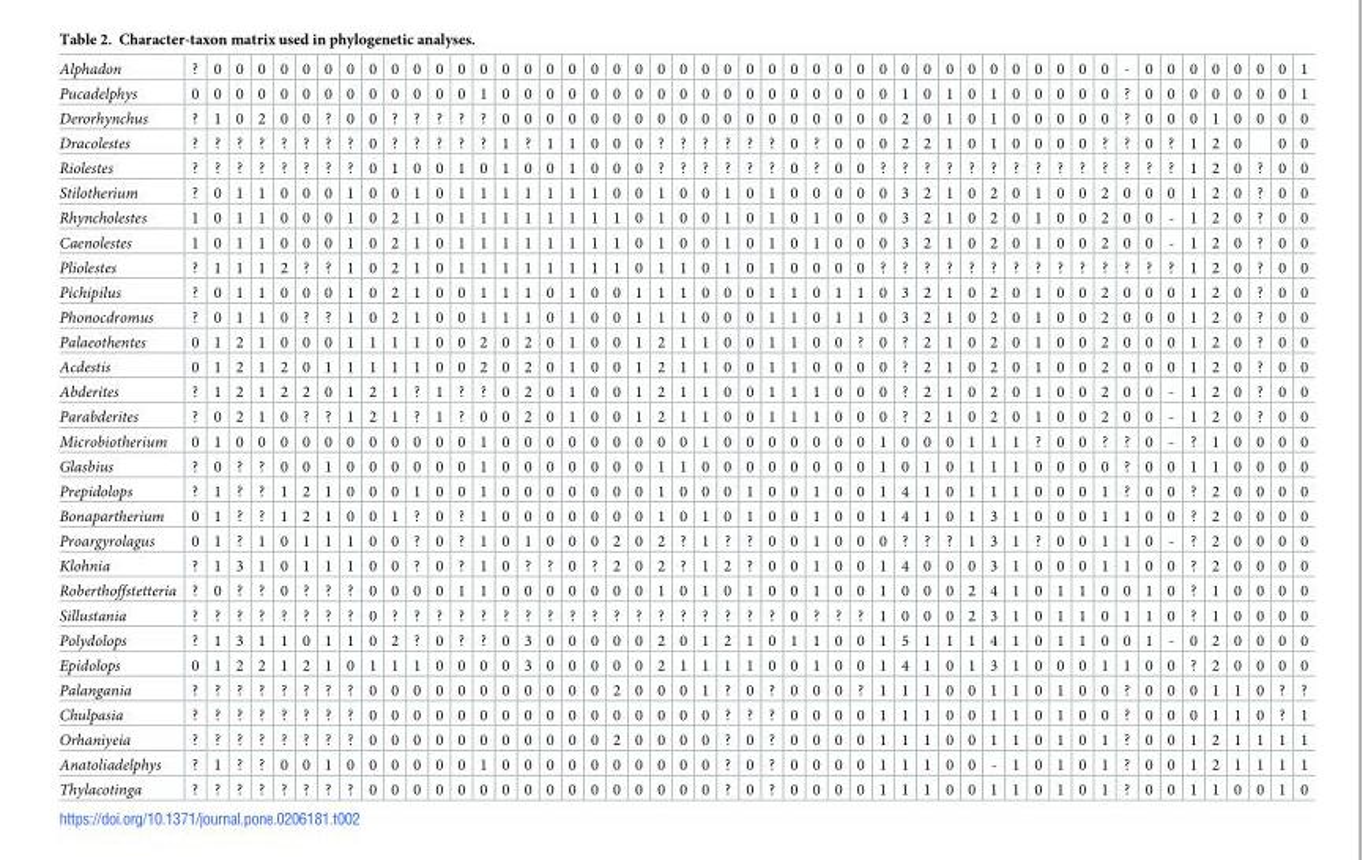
<table><tbody><tr><td>Alphadon</td><td>?</td><td>0</td><td>0</td><td>0</td><td>0</td><td>0</td><td>0</td><td>0</td><td>0</td><td>0</td><td>0</td><td>0</td><td>0</td><td>0</td><td>0</td><td>0</td><td>0</td><td>0</td><td>0</td><td>0</td><td>0</td><td>0</td><td>0</td><td>0</td><td>0</td><td>0</td><td>0</td><td>0</td><td>0</td><td>0</td><td>0</td><td>0</td><td>0</td><td>0</td><td>0</td><td>0</td><td>0</td><td>0</td><td>0</td><td>0</td><td>0</td><td>0</td><td>-</td><td>0</td><td>0</td><td>0</td><td>0</td><td>0</td><td>0</td><td>0</td><td>1</td></tr><tr><td>Pucadelphys</td><td>0</td><td>0</td><td>0</td><td>0</td><td>0</td><td>0</td><td>0</td><td>0</td><td>0</td><td>0</td><td>0</td><td>0</td><td>0</td><td>1</td><td>0</td><td>0</td><td>0</td><td>0</td><td>0</td><td>0</td><td>0</td><td>0</td><td>0</td><td>0</td><td>0</td><td>0</td><td>0</td><td>0</td><td>0</td><td>0</td><td>0</td><td>0</td><td>1</td><td>0</td><td>1</td><td>0</td><td>1</td><td>0</td><td>0</td><td>0</td><td>0</td><td>0</td><td>?</td><td>0</td><td>0</td><td>0</td><td>0</td><td>0</td><td>0</td><td>0</td><td>1</td></tr><tr><td>Derorhynchus</td><td>?</td><td>1</td><td>0</td><td>2</td><td>0</td><td>0</td><td>?</td><td>0</td><td>0</td><td>?</td><td>?</td><td>?</td><td>?</td><td>?</td><td>0</td><td>0</td><td>0</td><td>0</td><td>0</td><td>0</td><td>0</td><td>0</td><td>0</td><td>0</td><td>0</td><td>0</td><td>0</td><td>0</td><td>0</td><td>0</td><td>0</td><td>0</td><td>2</td><td>0</td><td>1</td><td>0</td><td>1</td><td>0</td><td>0</td><td>0</td><td>0</td><td>0</td><td>?</td><td>0</td><td>0</td><td>0</td><td>1</td><td>0</td><td>0</td><td>0</td><td>0</td></tr><tr><td>Dracolestes</td><td>?</td><td>?</td><td>?</td><td>?</td><td>?</td><td>?</td><td>?</td><td>?</td><td>0</td><td>?</td><td>?</td><td>?</td><td>?</td><td>?</td><td>1</td><td>?</td><td>1</td><td>1</td><td>0</td><td>0</td><td>0</td><td>?</td><td>?</td><td>?</td><td>?</td><td>?</td><td>?</td><td>0</td><td>?</td><td>0</td><td>0</td><td>0</td><td>2</td><td>2</td><td>1</td><td>0</td><td>1</td><td>0</td><td>0</td><td>0</td><td>0</td><td>?</td><td>?</td><td>0</td><td>?</td><td>1</td><td>2</td><td>0</td><td></td><td>0</td><td>0</td></tr><tr><td>Riolestes</td><td>?</td><td>?</td><td>?</td><td>?</td><td>?</td><td>?</td><td>?</td><td>?</td><td>0</td><td>1</td><td>0</td><td>0</td><td>1</td><td>0</td><td>1</td><td>0</td><td>0</td><td>1</td><td>0</td><td>0</td><td>0</td><td>?</td><td>?</td><td>?</td><td>?</td><td>?</td><td>?</td><td>0</td><td>?</td><td>0</td><td>0</td><td>?</td><td>?</td><td>?</td><td>?</td><td>?</td><td>?</td><td>?</td><td>?</td><td>?</td><td>?</td><td>?</td><td>?</td><td>?</td><td>?</td><td>1</td><td>2</td><td>0</td><td>?</td><td>0</td><td>0</td></tr><tr><td>Stilotherium</td><td>?</td><td>0</td><td>1</td><td>1</td><td>0</td><td>0</td><td>0</td><td>1</td><td>0</td><td>0</td><td>1</td><td>0</td><td>1</td><td>1</td><td>1</td><td>1</td><td>1</td><td>1</td><td>1</td><td>0</td><td>0</td><td>1</td><td>0</td><td>0</td><td>1</td><td>0</td><td>1</td><td>0</td><td>0</td><td>0</td><td>0</td><td>0</td><td>3</td><td>2</td><td>1</td><td>0</td><td>2</td><td>0</td><td>1</td><td>0</td><td>0</td><td>2</td><td>0</td><td>0</td><td>0</td><td>1</td><td>2</td><td>0</td><td>?</td><td>0</td><td>0</td></tr><tr><td>Rhyncholestes</td><td>1</td><td>0</td><td>1</td><td>1</td><td>0</td><td>0</td><td>0</td><td>1</td><td>0</td><td>2</td><td>1</td><td>0</td><td>1</td><td>1</td><td>1</td><td>1</td><td>1</td><td>1</td><td>1</td><td>1</td><td>0</td><td>1</td><td>0</td><td>0</td><td>1</td><td>0</td><td>1</td><td>0</td><td>1</td><td>0</td><td>0</td><td>0</td><td>3</td><td>2</td><td>1</td><td>0</td><td>2</td><td>0</td><td>1</td><td>0</td><td>0</td><td>2</td><td>0</td><td>0</td><td>-</td><td>1</td><td>2</td><td>0</td><td>?</td><td>0</td><td>0</td></tr><tr><td>Caenolestes</td><td>1</td><td>0</td><td>1</td><td>1</td><td>0</td><td>0</td><td>0</td><td>1</td><td>0</td><td>2</td><td>1</td><td>0</td><td>1</td><td>1</td><td>1</td><td>1</td><td>1</td><td>1</td><td>1</td><td>1</td><td>0</td><td>1</td><td>0</td><td>0</td><td>1</td><td>0</td><td>1</td><td>0</td><td>1</td><td>0</td><td>0</td><td>0</td><td>3</td><td>2</td><td>1</td><td>0</td><td>2</td><td>0</td><td>1</td><td>0</td><td>0</td><td>2</td><td>0</td><td>0</td><td>-</td><td>1</td><td>2</td><td>0</td><td>?</td><td>0</td><td>0</td></tr><tr><td>Pliolestes</td><td>?</td><td>1</td><td>1</td><td>1</td><td>2</td><td>?</td><td>?</td><td>1</td><td>0</td><td>2</td><td>1</td><td>0</td><td>1</td><td>1</td><td>1</td><td>1</td><td>1</td><td>1</td><td>1</td><td>1</td><td>0</td><td>1</td><td>1</td><td>0</td><td>1</td><td>0</td><td>1</td><td>0</td><td>0</td><td>0</td><td>0</td><td>?</td><td>?</td><td>?</td><td>?</td><td>?</td><td>?</td><td>?</td><td>?</td><td>?</td><td>?</td><td>?</td><td>?</td><td>?</td><td>?</td><td>1</td><td>2</td><td>0</td><td>?</td><td>0</td><td>0</td></tr><tr><td>Pichipilus</td><td>?</td><td>0</td><td>1</td><td>1</td><td>0</td><td>0</td><td>0</td><td>1</td><td>0</td><td>2</td><td>1</td><td>0</td><td>0</td><td>1</td><td>1</td><td>1</td><td>0</td><td>1</td><td>0</td><td>0</td><td>1</td><td>1</td><td>1</td><td>0</td><td>0</td><td>0</td><td>1</td><td>1</td><td>0</td><td>1</td><td>1</td><td>0</td><td>3</td><td>2</td><td>1</td><td>0</td><td>2</td><td>0</td><td>1</td><td>0</td><td>0</td><td>2</td><td>0</td><td>0</td><td>0</td><td>1</td><td>2</td><td>0</td><td>?</td><td>0</td><td>0</td></tr><tr><td>Phonocdromus</td><td>?</td><td>0</td><td>1</td><td>1</td><td>0</td><td>?</td><td>?</td><td>1</td><td>0</td><td>2</td><td>1</td><td>0</td><td>0</td><td>1</td><td>1</td><td>1</td><td>0</td><td>1</td><td>0</td><td>0</td><td>1</td><td>1</td><td>1</td><td>0</td><td>0</td><td>0</td><td>1</td><td>1</td><td>0</td><td>1</td><td>1</td><td>0</td><td>3</td><td>2</td><td>1</td><td>0</td><td>2</td><td>0</td><td>1</td><td>0</td><td>0</td><td>2</td><td>0</td><td>0</td><td>0</td><td>1</td><td>2</td><td>0</td><td>?</td><td>0</td><td>0</td></tr><tr><td>Palaeothentes</td><td>0</td><td>1</td><td>2</td><td>1</td><td>0</td><td>0</td><td>0</td><td>1</td><td>1</td><td>1</td><td>1</td><td>0</td><td>0</td><td>2</td><td>0</td><td>2</td><td>0</td><td>1</td><td>0</td><td>0</td><td>1</td><td>2</td><td>1</td><td>1</td><td>0</td><td>0</td><td>1</td><td>1</td><td>0</td><td>0</td><td>?</td><td>0</td><td>?</td><td>2</td><td>1</td><td>0</td><td>2</td><td>0</td><td>1</td><td>0</td><td>0</td><td>2</td><td>0</td><td>0</td><td>0</td><td>1</td><td>2</td><td>0</td><td>?</td><td>0</td><td>0</td></tr><tr><td>Acdestis</td><td>0</td><td>1</td><td>2</td><td>1</td><td>2</td><td>0</td><td>1</td><td>1</td><td>1</td><td>1</td><td>1</td><td>0</td><td>0</td><td>2</td><td>0</td><td>2</td><td>0</td><td>1</td><td>0</td><td>0</td><td>1</td><td>2</td><td>1</td><td>1</td><td>0</td><td>0</td><td>1</td><td>1</td><td>0</td><td>0</td><td>0</td><td>0</td><td>?</td><td>2</td><td>1</td><td>0</td><td>2</td><td>0</td><td>1</td><td>0</td><td>0</td><td>2</td><td>0</td><td>0</td><td>0</td><td>1</td><td>2</td><td>0</td><td>?</td><td>0</td><td>0</td></tr><tr><td>Abderites</td><td>?</td><td>1</td><td>2</td><td>1</td><td>2</td><td>2</td><td>0</td><td>1</td><td>2</td><td>1</td><td>?</td><td>1</td><td>?</td><td>?</td><td>0</td><td>2</td><td>0</td><td>1</td><td>0</td><td>0</td><td>1</td><td>2</td><td>1</td><td>1</td><td>0</td><td>0</td><td>1</td><td>1</td><td>1</td><td>0</td><td>0</td><td>0</td><td>?</td><td>2</td><td>1</td><td>0</td><td>2</td><td>0</td><td>1</td><td>0</td><td>0</td><td>2</td><td>0</td><td>0</td><td>-</td><td>1</td><td>2</td><td>0</td><td>?</td><td>0</td><td>0</td></tr><tr><td>Parabderites</td><td>?</td><td>0</td><td>2</td><td>1</td><td>0</td><td>?</td><td>?</td><td>1</td><td>2</td><td>1</td><td>?</td><td>1</td><td>?</td><td>0</td><td>0</td><td>2</td><td>0</td><td>1</td><td>0</td><td>0</td><td>1</td><td>2</td><td>1</td><td>1</td><td>0</td><td>0</td><td>1</td><td>1</td><td>1</td><td>0</td><td>0</td><td>0</td><td>?</td><td>2</td><td>1</td><td>0</td><td>2</td><td>0</td><td>1</td><td>0</td><td>0</td><td>2</td><td>0</td><td>0</td><td>-</td><td>1</td><td>2</td><td>0</td><td>?</td><td>0</td><td>0</td></tr><tr><td>Microbiotherium</td><td>0</td><td>1</td><td>0</td><td>0</td><td>0</td><td>0</td><td>0</td><td>0</td><td>0</td><td>0</td><td>0</td><td>0</td><td>0</td><td>1</td><td>0</td><td>0</td><td>0</td><td>0</td><td>0</td><td>0</td><td>0</td><td>0</td><td>0</td><td>1</td><td>0</td><td>0</td><td>0</td><td>0</td><td>0</td><td>0</td><td>0</td><td>1</td><td>0</td><td>0</td><td>0</td><td>1</td><td>1</td><td>1</td><td>?</td><td>0</td><td>0</td><td>?</td><td>?</td><td>0</td><td>-</td><td>?</td><td>1</td><td>0</td><td>0</td><td>0</td><td>0</td></tr><tr><td>Glasbius</td><td>?</td><td>0</td><td>?</td><td>?</td><td>0</td><td>0</td><td>1</td><td>0</td><td>0</td><td>0</td><td>0</td><td>0</td><td>0</td><td>1</td><td>0</td><td>0</td><td>0</td><td>0</td><td>0</td><td>0</td><td>0</td><td>1</td><td>1</td><td>0</td><td>0</td><td>0</td><td>0</td><td>0</td><td>0</td><td>0</td><td>0</td><td>1</td><td>0</td><td>1</td><td>0</td><td>1</td><td>1</td><td>1</td><td>0</td><td>0</td><td>0</td><td>0</td><td>?</td><td>0</td><td>0</td><td>1</td><td>1</td><td>0</td><td>0</td><td>0</td><td>0</td></tr><tr><td>Prepidolops</td><td>?</td><td>1</td><td>?</td><td>?</td><td>1</td><td>2</td><td>1</td><td>0</td><td>0</td><td>0</td><td>1</td><td>0</td><td>0</td><td>1</td><td>0</td><td>0</td><td>0</td><td>0</td><td>0</td><td>0</td><td>0</td><td>1</td><td>0</td><td>0</td><td>0</td><td>1</td><td>0</td><td>0</td><td>1</td><td>0</td><td>0</td><td>1</td><td>4</td><td>1</td><td>0</td><td>1</td><td>1</td><td>1</td><td>0</td><td>0</td><td>0</td><td>1</td><td>?</td><td>0</td><td>0</td><td>?</td><td>2</td><td>0</td><td>0</td><td>0</td><td>0</td></tr><tr><td>Bonapartherium</td><td>0</td><td>1</td><td>?</td><td>?</td><td>1</td><td>2</td><td>1</td><td>0</td><td>0</td><td>1</td><td>?</td><td>0</td><td>?</td><td>1</td><td>0</td><td>0</td><td>0</td><td>0</td><td>0</td><td>0</td><td>0</td><td>1</td><td>0</td><td>1</td><td>0</td><td>1</td><td>0</td><td>0</td><td>1</td><td>0</td><td>0</td><td>1</td><td>4</td><td>1</td><td>0</td><td>1</td><td>3</td><td>1</td><td>0</td><td>0</td><td>0</td><td>1</td><td>1</td><td>0</td><td>0</td><td>?</td><td>2</td><td>0</td><td>0</td><td>0</td><td>0</td></tr><tr><td>Proargyrolagus</td><td>0</td><td>1</td><td>?</td><td>1</td><td>0</td><td>1</td><td>1</td><td>1</td><td>0</td><td>0</td><td>?</td><td>0</td><td>?</td><td>1</td><td>0</td><td>1</td><td>0</td><td>0</td><td>0</td><td>2</td><td>0</td><td>2</td><td>?</td><td>1</td><td>?</td><td>?</td><td>0</td><td>0</td><td>1</td><td>0</td><td>0</td><td>0</td><td>?</td><td>?</td><td>?</td><td>1</td><td>3</td><td>1</td><td>?</td><td>0</td><td>0</td><td>1</td><td>1</td><td>0</td><td>-</td><td>?</td><td>2</td><td>0</td><td>0</td><td>0</td><td>0</td></tr><tr><td>Klohnia</td><td>?</td><td>1</td><td>3</td><td>1</td><td>0</td><td>1</td><td>1</td><td>1</td><td>0</td><td>0</td><td>?</td><td>0</td><td>?</td><td>1</td><td>0</td><td>?</td><td>?</td><td>0</td><td>?</td><td>2</td><td>0</td><td>2</td><td>?</td><td>1</td><td>2</td><td>?</td><td>0</td><td>0</td><td>1</td><td>0</td><td>0</td><td>1</td><td>4</td><td>0</td><td>0</td><td>0</td><td>3</td><td>1</td><td>0</td><td>0</td><td>0</td><td>1</td><td>1</td><td>0</td><td>0</td><td>?</td><td>2</td><td>0</td><td>0</td><td>0</td><td>0</td></tr><tr><td>Roberthoffstetteria</td><td>?</td><td>0</td><td>?</td><td>?</td><td>0</td><td>?</td><td>?</td><td>?</td><td>0</td><td>0</td><td>0</td><td>0</td><td>1</td><td>1</td><td>0</td><td>0</td><td>0</td><td>0</td><td>0</td><td>0</td><td>0</td><td>1</td><td>0</td><td>1</td><td>0</td><td>1</td><td>0</td><td>0</td><td>1</td><td>0</td><td>0</td><td>1</td><td>0</td><td>0</td><td>0</td><td>2</td><td>4</td><td>1</td><td>0</td><td>1</td><td>1</td><td>0</td><td>0</td><td>1</td><td>0</td><td>?</td><td>1</td><td>0</td><td>0</td><td>0</td><td>0</td></tr><tr><td>Sillustania</td><td>?</td><td>?</td><td>?</td><td>?</td><td>?</td><td>?</td><td>?</td><td>?</td><td>0</td><td>?</td><td>?</td><td>?</td><td>?</td><td>?</td><td>?</td><td>?</td><td>?</td><td>?</td><td>?</td><td>?</td><td>?</td><td>?</td><td>?</td><td>?</td><td>?</td><td>?</td><td>?</td><td>0</td><td>?</td><td>?</td><td>?</td><td>1</td><td>0</td><td>0</td><td>0</td><td>2</td><td>3</td><td>1</td><td>0</td><td>1</td><td>1</td><td>0</td><td>1</td><td>1</td><td>0</td><td>?</td><td>1</td><td>0</td><td>0</td><td>0</td><td>0</td></tr><tr><td>Polydolops</td><td>?</td><td>1</td><td>3</td><td>1</td><td>1</td><td>0</td><td>1</td><td>1</td><td>0</td><td>2</td><td>?</td><td>0</td><td>?</td><td>?</td><td>0</td><td>3</td><td>0</td><td>0</td><td>0</td><td>0</td><td>0</td><td>2</td><td>0</td><td>1</td><td>2</td><td>1</td><td>0</td><td>1</td><td>1</td><td>0</td><td>0</td><td>1</td><td>5</td><td>1</td><td>1</td><td>1</td><td>4</td><td>1</td><td>0</td><td>1</td><td>1</td><td>0</td><td>0</td><td>1</td><td>-</td><td>0</td><td>2</td><td>0</td><td>0</td><td>0</td><td>0</td></tr><tr><td>Epidolops</td><td>0</td><td>1</td><td>2</td><td>2</td><td>1</td><td>2</td><td>1</td><td>0</td><td>1</td><td>1</td><td>1</td><td>0</td><td>0</td><td>0</td><td>0</td><td>3</td><td>0</td><td>0</td><td>0</td><td>0</td><td>0</td><td>2</td><td>1</td><td>1</td><td>1</td><td>1</td><td>0</td><td>0</td><td>1</td><td>0</td><td>0</td><td>1</td><td>4</td><td>1</td><td>0</td><td>1</td><td>3</td><td>1</td><td>0</td><td>0</td><td>0</td><td>1</td><td>1</td><td>0</td><td>0</td><td>?</td><td>2</td><td>0</td><td>0</td><td>0</td><td>0</td></tr><tr><td>Palangania</td><td>?</td><td>?</td><td>?</td><td>?</td><td>?</td><td>?</td><td>?</td><td>?</td><td>0</td><td>0</td><td>0</td><td>0</td><td>0</td><td>0</td><td>0</td><td>0</td><td>0</td><td>0</td><td>0</td><td>2</td><td>0</td><td>0</td><td>0</td><td>1</td><td>?</td><td>0</td><td>?</td><td>0</td><td>0</td><td>0</td><td>?</td><td>1</td><td>1</td><td>1</td><td>0</td><td>0</td><td>1</td><td>1</td><td>0</td><td>1</td><td>0</td><td>0</td><td>?</td><td>0</td><td>0</td><td>0</td><td>1</td><td>1</td><td>0</td><td>?</td><td>?</td></tr><tr><td>Chulpasia</td><td>?</td><td>?</td><td>?</td><td>?</td><td>?</td><td>?</td><td>?</td><td>?</td><td>0</td><td>0</td><td>0</td><td>0</td><td>0</td><td>0</td><td>0</td><td>0</td><td>0</td><td>0</td><td>0</td><td>0</td><td>0</td><td>0</td><td>0</td><td>0</td><td>?</td><td>?</td><td>?</td><td>0</td><td>0</td><td>0</td><td>0</td><td>1</td><td>1</td><td>1</td><td>0</td><td>0</td><td>1</td><td>1</td><td>0</td><td>1</td><td>0</td><td>0</td><td>?</td><td>0</td><td>0</td><td>0</td><td>1</td><td>1</td><td>0</td><td>?</td><td>1</td></tr><tr><td>Orhaniyeia</td><td>?</td><td>?</td><td>?</td><td>?</td><td>?</td><td>?</td><td>?</td><td>?</td><td>0</td><td>0</td><td>0</td><td>0</td><td>0</td><td>0</td><td>0</td><td>0</td><td>0</td><td>0</td><td>0</td><td>2</td><td>0</td><td>0</td><td>0</td><td>0</td><td>?</td><td>0</td><td>?</td><td>0</td><td>0</td><td>0</td><td>0</td><td>1</td><td>1</td><td>1</td><td>0</td><td>0</td><td>1</td><td>1</td><td>0</td><td>1</td><td>0</td><td>1</td><td>?</td><td>0</td><td>0</td><td>1</td><td>2</td><td>1</td><td>1</td><td>1</td><td>1</td></tr><tr><td>Anatoliadelphys</td><td>?</td><td>1</td><td>?</td><td>?</td><td>0</td><td>0</td><td>1</td><td>0</td><td>0</td><td>0</td><td>0</td><td>0</td><td>0</td><td>1</td><td>0</td><td>0</td><td>0</td><td>0</td><td>0</td><td>0</td><td>0</td><td>0</td><td>0</td><td>0</td><td>?</td><td>0</td><td>?</td><td>0</td><td>0</td><td>0</td><td>0</td><td>1</td><td>1</td><td>1</td><td>0</td><td>0</td><td>-</td><td>1</td><td>0</td><td>1</td><td>0</td><td>1</td><td>?</td><td>0</td><td>0</td><td>1</td><td>2</td><td>1</td><td>1</td><td>1</td><td>1</td></tr><tr><td>Thylacotinga</td><td>?</td><td>?</td><td>?</td><td>?</td><td>?</td><td>?</td><td>?</td><td>?</td><td>0</td><td>0</td><td>0</td><td>0</td><td>0</td><td>0</td><td>0</td><td>0</td><td>0</td><td>0</td><td>0</td><td>0</td><td>0</td><td>0</td><td>0</td><td>0</td><td>?</td><td>0</td><td>?</td><td>0</td><td>0</td><td>0</td><td>0</td><td>1</td><td>1</td><td>1</td><td>0</td><td>0</td><td>1</td><td>1</td><td>0</td><td>1</td><td>0</td><td>1</td><td>?</td><td>0</td><td>0</td><td>1</td><td>1</td><td>0</td><td>0</td><td>1</td><td>0</td></tr></tbody></table>